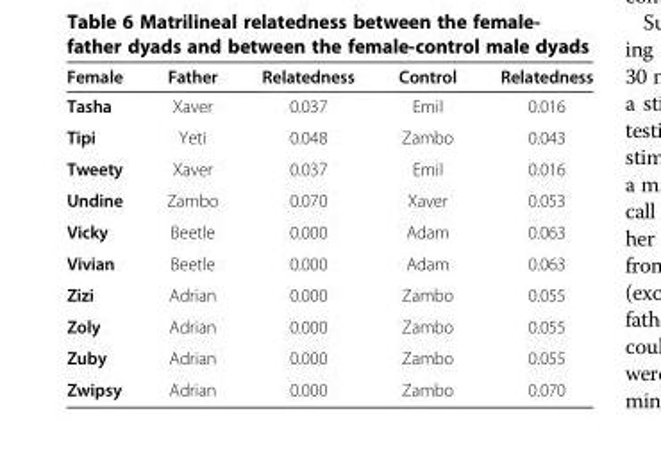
<table><thead><tr><td>Female</td><td>Father</td><td>Relatedness</td><td>Control</td><td>Relatedness</td></tr></thead><tbody><tr><td>Tasha</td><td>Xaver</td><td>0.037</td><td>Emil</td><td>0.016</td></tr><tr><td>Tipi</td><td>Yeti</td><td>0.048</td><td>Zambo</td><td>0.043</td></tr><tr><td>Tweety</td><td>Xaver</td><td>0.037</td><td>Emil</td><td>0.016</td></tr><tr><td>Undine</td><td>Zambo</td><td>0.070</td><td>Xaver</td><td>0.053</td></tr><tr><td>Vicky</td><td>Beetle</td><td>0.000</td><td>Adam</td><td>0.063</td></tr><tr><td>Vivian</td><td>Beetle</td><td>0.000</td><td>Adam</td><td>0.063</td></tr><tr><td>Zizi</td><td>Adrian</td><td>0.000</td><td>Zambo</td><td>0.055</td></tr><tr><td>Zoly</td><td>Adrian</td><td>0.000</td><td>Zambo</td><td>0.055</td></tr><tr><td>Zuby</td><td>Adrian</td><td>0.000</td><td>Zambo</td><td>0.055</td></tr><tr><td>Zwipsy</td><td>Adrian</td><td>0.000</td><td>Zambo</td><td>0.070</td></tr></tbody></table>